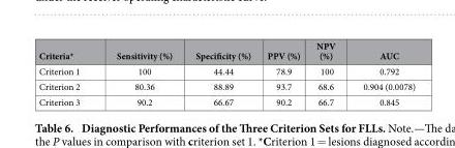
<table><thead><tr><td>Criteria*</td><td>Sensitivity (%)</td><td>Specificity (%)</td><td>PPV (%)</td><td>NPV (%)</td><td>AUC</td></tr></thead><tbody><tr><td>Criterion 1</td><td>100</td><td>44.44</td><td>78.9</td><td>100</td><td>0.792</td></tr><tr><td>Criterion 2</td><td>80.36</td><td>88.89</td><td>93.7</td><td>68.6</td><td>0.904 (0.0078)</td></tr><tr><td>Criterion 3</td><td>90.2</td><td>66.67</td><td>90.2</td><td>66.7</td><td>0.845</td></tr></tbody></table>